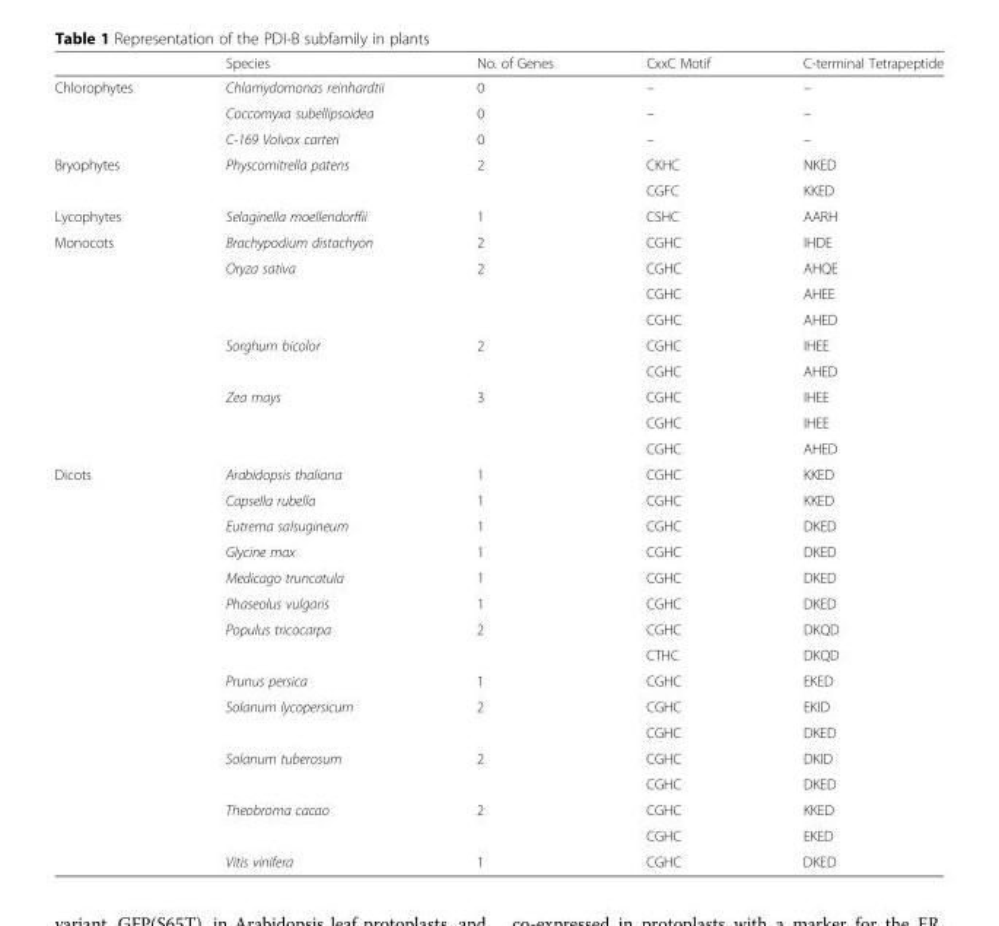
<table><thead><tr><td></td><td>Species</td><td>No. of Genes</td><td>CxxC Motif</td><td>C-terminal Tetrapeptide</td></tr></thead><tbody><tr><td rowspan="3">Chlorophytes</td><td>Chlamydomonas reinhardtii</td><td>0</td><td>–</td><td>–</td></tr><tr><td>Coccomyxa subellipsoidea</td><td>0</td><td>–</td><td>–</td></tr><tr><td>C-169 Volvox carteri</td><td>0</td><td>–</td><td>–</td></tr><tr><td rowspan="2">Bryophytes</td><td rowspan="2">Physcomitrella patens</td><td rowspan="2">2</td><td>CKHC</td><td>NKED</td></tr><tr><td>CGFC</td><td>KKED</td></tr><tr><td>Lycophytes</td><td>Selaginella moellendorffii</td><td>1</td><td>CSHC</td><td>AARH</td></tr><tr><td rowspan="9">Monocots</td><td>Brachypodium distachyon</td><td>2</td><td>CGHC</td><td>IHDE</td></tr><tr><td rowspan="3">Oryza sativa</td><td rowspan="3">2</td><td>CGHC</td><td>AHQE</td></tr><tr><td>CGHC</td><td>AHEE</td></tr><tr><td>CGHC</td><td>AHED</td></tr><tr><td rowspan="2">Sorghum bicolor</td><td rowspan="2">2</td><td>CGHC</td><td>IHEE</td></tr><tr><td>CGHC</td><td>AHED</td></tr><tr><td rowspan="3">Zea mays</td><td rowspan="3">3</td><td>CGHC</td><td>IHEE</td></tr><tr><td>CGHC</td><td>IHEE</td></tr><tr><td>CGHC</td><td>AHED</td></tr><tr><td rowspan="16">Dicots</td><td>Arabidopsis thaliana</td><td>1</td><td>CGHC</td><td>KKED</td></tr><tr><td>Capsella rubella</td><td>1</td><td>CGHC</td><td>KKED</td></tr><tr><td>Eutrema salsugineum</td><td>1</td><td>CGHC</td><td>DKED</td></tr><tr><td>Glycine max</td><td>1</td><td>CGHC</td><td>DKED</td></tr><tr><td>Medicago truncatula</td><td>1</td><td>CGHC</td><td>DKED</td></tr><tr><td>Phaseolus vulgaris</td><td>1</td><td>CGHC</td><td>DKED</td></tr><tr><td rowspan="2">Populus tricocarpa</td><td rowspan="2">2</td><td>CGHC</td><td>DKQD</td></tr><tr><td>CTHC</td><td>DKQD</td></tr><tr><td>Prunus persica</td><td>1</td><td>CGHC</td><td>EKED</td></tr><tr><td rowspan="2">Solanum lycopersicum</td><td rowspan="2">2</td><td>CGHC</td><td>EKID</td></tr><tr><td>CGHC</td><td>DKED</td></tr><tr><td rowspan="2">Solanum tuberosum</td><td rowspan="2">2</td><td>CGHC</td><td>DKID</td></tr><tr><td>CGHC</td><td>DKED</td></tr><tr><td rowspan="2">Theobroma cacao</td><td rowspan="2">2</td><td>CGHC</td><td>KKED</td></tr><tr><td>CGHC</td><td>EKED</td></tr><tr><td>Vitis vinifera</td><td>1</td><td>CGHC</td><td>DKED</td></tr></tbody></table>